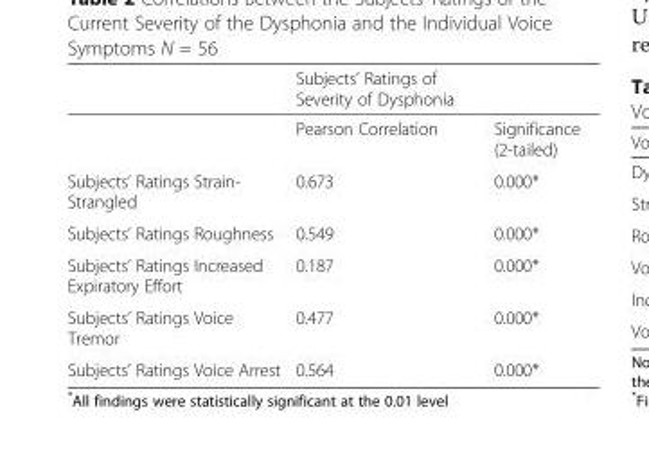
<table><thead><tr><td></td><td>Subjects’ Ratings of Severity of Dysphonia</td><td></td></tr></thead><tbody><tr><td></td><td>Pearson Correlation</td><td>Significance (2-tailed)</td></tr><tr><td>Subjects’ Ratings Strain- Strangled</td><td>0.673</td><td>0.000*</td></tr><tr><td>Subjects’ Ratings Roughness</td><td>0.549</td><td>0.000*</td></tr><tr><td>Subjects’ Ratings Increased Expiratory Effort</td><td>0.187</td><td>0.000*</td></tr><tr><td>Subjects’ Ratings Voice Tremor</td><td>0.477</td><td>0.000*</td></tr><tr><td>Subjects’ Ratings Voice Arrest</td><td>0.564</td><td>0.000*</td></tr></tbody></table>